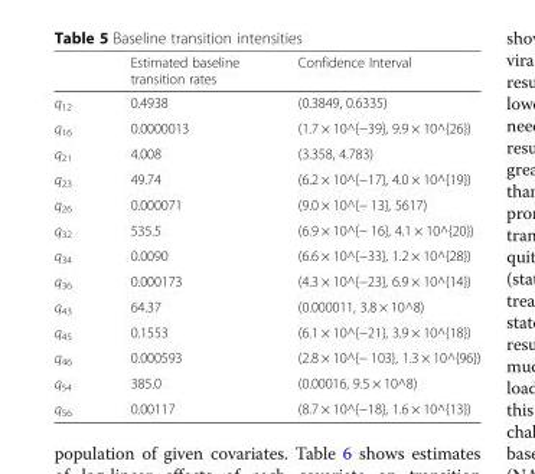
<table><thead><tr><td></td><td>Estimated baseline transition rates</td><td>Confidence Interval</td></tr></thead><tbody><tr><td>q<sub>12</sub></td><td>0.4938</td><td>(0.3849, 0.6335)</td></tr><tr><td>q<sub>16</sub></td><td>0.0000013</td><td>(1.7 × 10^{−39}, 9.9 × 10^{26})</td></tr><tr><td>q<sub>21</sub></td><td>4.008</td><td>(3.358, 4.783)</td></tr><tr><td>q<sub>23</sub></td><td>49.74</td><td>(6.2 × 10^{−17}, 4.0 × 10^{19})</td></tr><tr><td>q<sub>26</sub></td><td>0.000071</td><td>(9.0 × 10^{− 13}, 5617)</td></tr><tr><td>q<sub>32</sub></td><td>535.5</td><td>(6.9 × 10^{− 16}, 4.1 × 10^{20})</td></tr><tr><td>q<sub>34</sub></td><td>0.0090</td><td>(6.6 × 10^{−33}, 1.2 × 10^{28})</td></tr><tr><td>q<sub>36</sub></td><td>0.000173</td><td>(4.3 × 10^{−23}, 6.9 × 10^{14})</td></tr><tr><td>q<sub>43</sub></td><td>64.37</td><td>(0.000011, 3.8 × 10^8)</td></tr><tr><td>q<sub>45</sub></td><td>0.1553</td><td>(6.1 × 10^{−21}, 3.9 × 10^{18})</td></tr><tr><td>q<sub>46</sub></td><td>0.000593</td><td>(2.8 × 10^{− 103}, 1.3 × 10^{96})</td></tr><tr><td>q<sub>54</sub></td><td>385.0</td><td>(0.00016, 9.5 × 10^8)</td></tr><tr><td>q<sub>56</sub></td><td>0.00117</td><td>(8.7 × 10^{−18}, 1.6 × 10^{13})</td></tr></tbody></table>